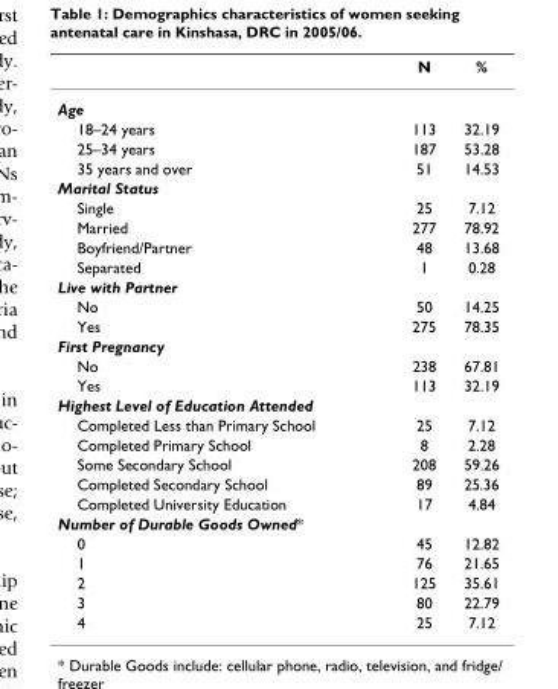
<table><thead><tr><td></td><td>N</td><td>%</td></tr></thead><tbody><tr><td colspan="3">Age</td></tr><tr><td>18–24 years</td><td>113</td><td>32.19</td></tr><tr><td>25–34 years</td><td>187</td><td>53.28</td></tr><tr><td>35 years and over</td><td>51</td><td>14.53</td></tr><tr><td colspan="3">Marital Status</td></tr><tr><td>Single</td><td>25</td><td>7.12</td></tr><tr><td>Married</td><td>277</td><td>78.92</td></tr><tr><td>Boyfriend/Partner</td><td>48</td><td>13.68</td></tr><tr><td>Separated</td><td>1</td><td>0.28</td></tr><tr><td colspan="3">Live with Partner</td></tr><tr><td>No</td><td>50</td><td>14.25</td></tr><tr><td>Yes</td><td>275</td><td>78.35</td></tr><tr><td colspan="3">First Pregnancy</td></tr><tr><td>No</td><td>238</td><td>67.81</td></tr><tr><td>Yes</td><td>113</td><td>32.19</td></tr><tr><td colspan="3">Highest Level of Education Attended</td></tr><tr><td>Completed Less than Primary School</td><td>25</td><td>7.12</td></tr><tr><td>Completed Primary School</td><td>8</td><td>2.28</td></tr><tr><td>Some Secondary School</td><td>208</td><td>59.26</td></tr><tr><td>Completed Secondary School</td><td>89</td><td>25.36</td></tr><tr><td>Completed University Education</td><td>17</td><td>4.84</td></tr><tr><td colspan="3">Number of Durable Goods Owned*</td></tr><tr><td>0</td><td>45</td><td>12.82</td></tr><tr><td>1</td><td>76</td><td>21.65</td></tr><tr><td>2</td><td>125</td><td>35.61</td></tr><tr><td>3</td><td>80</td><td>22.79</td></tr><tr><td>4</td><td>25</td><td>7.12</td></tr></tbody></table>